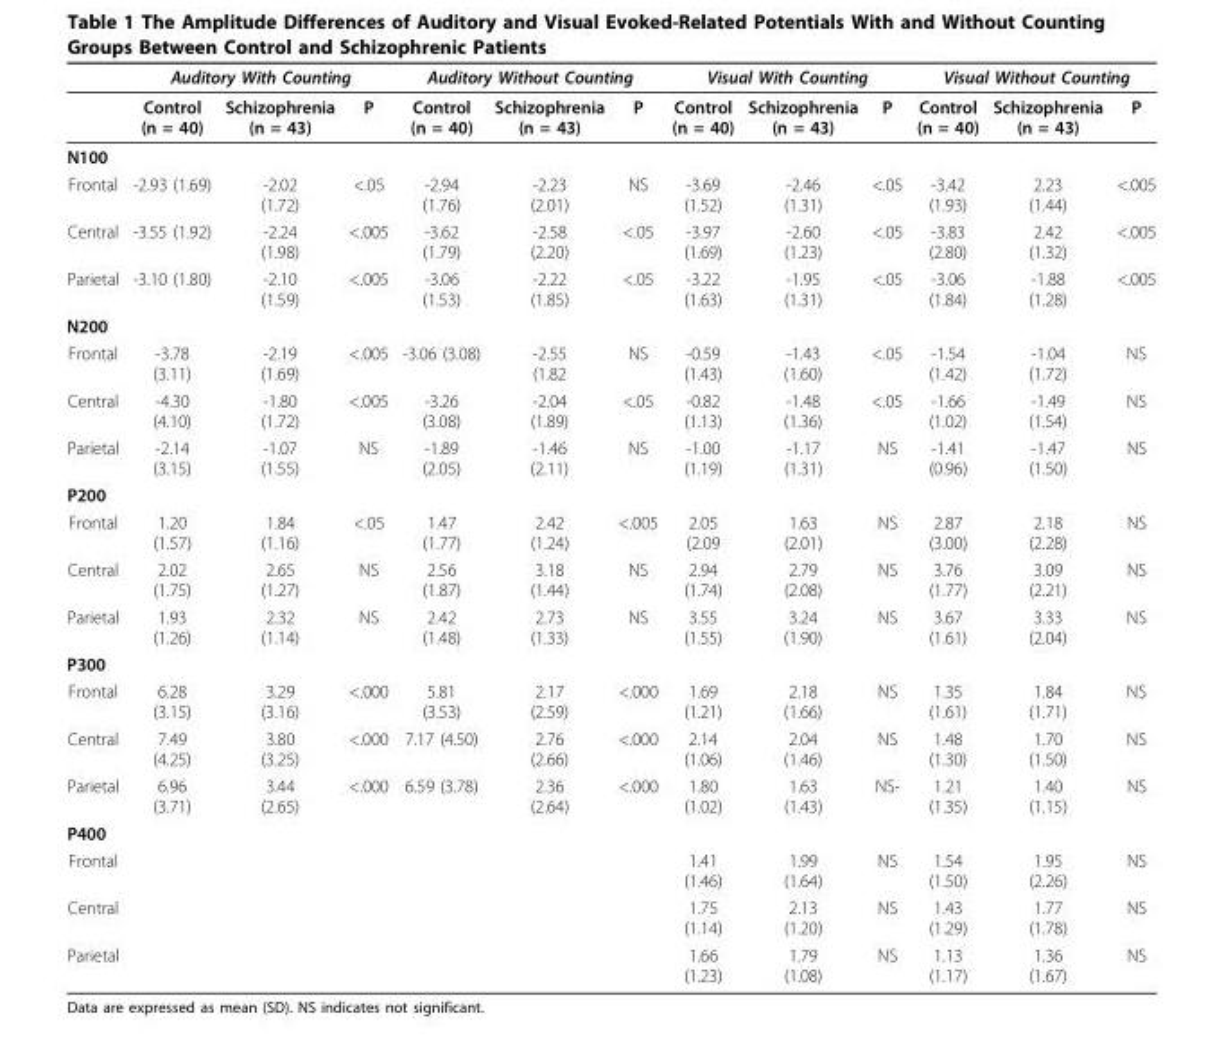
<table><thead><tr><td rowspan="2"></td><td colspan="3">Auditory With Counting</td><td colspan="3">Auditory Without Counting</td><td colspan="3">Visual With Counting</td><td colspan="3">Visual Without Counting</td></tr><tr><td>Control (n = 40)</td><td>Schizophrenia (n = 43)</td><td>P</td><td>Control (n = 40)</td><td>Schizophrenia (n = 43)</td><td>P</td><td>Control (n = 40)</td><td>Schizophrenia (n = 43)</td><td>P</td><td>Control (n = 40)</td><td>Schizophrenia (n = 43)</td><td>P</td></tr></thead><tbody><tr><td colspan="13">N100</td></tr><tr><td>Frontal</td><td>-2.93 (1.69)</td><td>-2.02 (1.72)</td><td>&lt;.05</td><td>-2.94 (1.76)</td><td>-2.23 (2.01)</td><td>NS</td><td>-3.69 (1.52)</td><td>-2.46 (1.31)</td><td>&lt;.05</td><td>-3.42 (1.93)</td><td>2.23 (1.44)</td><td>&lt;.005</td></tr><tr><td>Central</td><td>-3.55 (1.92)</td><td>-2.24 (1.98)</td><td>&lt;.005</td><td>-3.62 (1.79)</td><td>-2.58 (2.20)</td><td>&lt;.05</td><td>-3.97 (1.69)</td><td>-2.60 (1.23)</td><td>&lt;.05</td><td>-3.83 (2.80)</td><td>2.42 (1.32)</td><td>&lt;.005</td></tr><tr><td>Parietal</td><td>-3.10 (1.80)</td><td>-2.10 (1.59)</td><td>&lt;.005</td><td>-3.06 (1.53)</td><td>-2.22 (1.85)</td><td>&lt;.05</td><td>-3.22 (1.63)</td><td>-1.95 (1.31)</td><td>&lt;.05</td><td>-3.06 (1.84)</td><td>-1.88 (1.28)</td><td>&lt;.005</td></tr><tr><td colspan="13">N200</td></tr><tr><td>Frontal</td><td>-3.78 (3.11)</td><td>-2.19 (1.69)</td><td>&lt;.005</td><td>-3.06 (3.08)</td><td>-2.55 (1.82</td><td>NS</td><td>-0.59 (1.43)</td><td>-1.43 (1.60)</td><td>&lt;.05</td><td>-1.54 (1.42)</td><td>-1.04 (1.72)</td><td>NS</td></tr><tr><td>Central</td><td>-4.30 (4.10)</td><td>-1.80 (1.72)</td><td>&lt;.005</td><td>-3.26 (3.08)</td><td>-2.04 (1.89)</td><td>&lt;.05</td><td>-0.82 (1.13)</td><td>-1.48 (1.36)</td><td>&lt;.05</td><td>-1.66 (1.02)</td><td>-1.49 (1.54)</td><td>NS</td></tr><tr><td>Parietal</td><td>-2.14 (3.15)</td><td>-1.07 (1.55)</td><td>NS</td><td>-1.89 (2.05)</td><td>-1.46 (2.11)</td><td>NS</td><td>-1.00 (1.19)</td><td>-1.17 (1.31)</td><td>NS</td><td>-1.41 (0.96)</td><td>-1.47 (1.50)</td><td>NS</td></tr><tr><td colspan="13">P200</td></tr><tr><td>Frontal</td><td>1.20 (1.57)</td><td>1.84 (1.16)</td><td>&lt;.05</td><td>1.47 (1.77)</td><td>2.42 (1.24)</td><td>&lt;.005</td><td>2.05 (2.09</td><td>1.63 (2.01)</td><td>NS</td><td>2.87 (3.00)</td><td>2.18 (2.28)</td><td>NS</td></tr><tr><td>Central</td><td>2.02 (1.75)</td><td>2.65 (1.27)</td><td>NS</td><td>2.56 (1.87)</td><td>3.18 (1.44)</td><td>NS</td><td>2.94 (1.74)</td><td>2.79 (2.08)</td><td>NS</td><td>3.76 (1.77)</td><td>3.09 (2.21)</td><td>NS</td></tr><tr><td>Parietal</td><td>1.93 (1.26)</td><td>2.32 (1.14)</td><td>NS</td><td>2.42 (1.48)</td><td>2.73 (1.33)</td><td>NS</td><td>3.55 (1.55)</td><td>3.24 (1.90)</td><td>NS</td><td>3.67 (1.61)</td><td>3.33 (2.04)</td><td>NS</td></tr><tr><td colspan="13">P300</td></tr><tr><td>Frontal</td><td>6.28 (3.15)</td><td>3.29 (3.16)</td><td>&lt;.000</td><td>5.81 (3.53)</td><td>2.17 (2.59)</td><td>&lt;.000</td><td>1.69 (1.21)</td><td>2.18 (1.66)</td><td>NS</td><td>1.35 (1.61)</td><td>1.84 (1.71)</td><td>NS</td></tr><tr><td>Central</td><td>7.49 (4.25)</td><td>3.80 (3.25)</td><td>&lt;.000</td><td>7.17 (4.50)</td><td>2.76 (2.66)</td><td>&lt;.000</td><td>2.14 (1.06)</td><td>2.04 (1.46)</td><td>NS</td><td>1.48 (1.30)</td><td>1.70 (1.50)</td><td>NS</td></tr><tr><td>Parietal</td><td>6.96 (3.71)</td><td>3.44 (2.65)</td><td>&lt;.000</td><td>6.59 (3.78)</td><td>2.36 (2.64)</td><td>&lt;.000</td><td>1.80 (1.02)</td><td>1.63 (1.43)</td><td>NS-</td><td>1.21 (1.35)</td><td>1.40 (1.15)</td><td>NS</td></tr><tr><td colspan="13">P400</td></tr><tr><td>Frontal</td><td></td><td></td><td></td><td></td><td></td><td></td><td>1.41 (1.46)</td><td>1.99 (1.64)</td><td>NS</td><td>1.54 (1.50)</td><td>1.95 (2.26)</td><td>NS</td></tr><tr><td>Central</td><td></td><td></td><td></td><td></td><td></td><td></td><td>1.75 (1.14)</td><td>2.13 (1.20)</td><td>NS</td><td>1.43 (1.29)</td><td>1.77 (1.78)</td><td>NS</td></tr><tr><td>Parietal</td><td></td><td></td><td></td><td></td><td></td><td></td><td>1.66 (1.23)</td><td>1.79 (1.08)</td><td>NS</td><td>1.13 (1.17)</td><td>1.36 (1.67)</td><td>NS</td></tr></tbody></table>